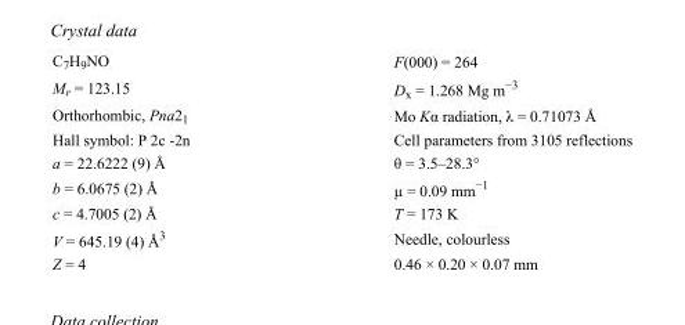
<table><tbody><tr><td>C<sub>7</sub>H<sub>9</sub>NO</td><td>F(000) = 264</td></tr><tr><td>M<sub>r</sub> = 123.15</td><td>D<sub>x</sub> = 1.268 Mg m<sup>−3</sup></td></tr><tr><td>Orthorhombic, Pna2<sub>1</sub></td><td>Mo Kα radiation, λ = 0.71073 Å</td></tr><tr><td>Hall symbol: P 2c -2n</td><td>Cell parameters from 3105 reflections</td></tr><tr><td>a = 22.6222 (9) Å</td><td>θ = 3.5–28.3°</td></tr><tr><td>b = 6.0675 (2) Å</td><td>µ = 0.09 mm<sup>−1</sup></td></tr><tr><td>c = 4.7005 (2) Å</td><td>T = 173 K</td></tr><tr><td>V = 645.19 (4) Å<sup>3</sup></td><td>Needle, colourless</td></tr><tr><td>Z = 4</td><td>0.46 × 0.20 × 0.07 mm</td></tr></tbody></table>